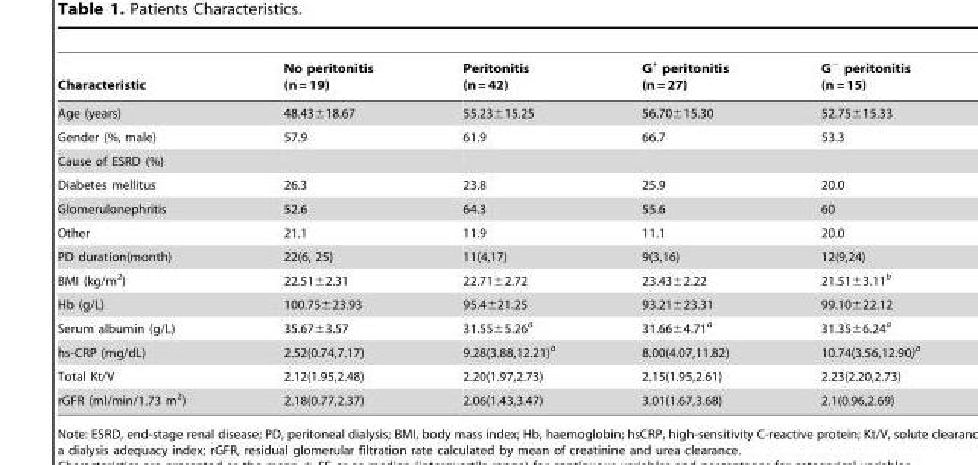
<table><thead><tr><td>Characteristic</td><td>No peritonitis (n = 19)</td><td>Peritonitis (n = 42)</td><td>G<sup>+</sup> peritonitis (n = 27)</td><td>G<sup>−</sup> peritonitis (n = 15)</td></tr></thead><tbody><tr><td>Age (years)</td><td>48.43±18.67</td><td>55.23±15.25</td><td>56.70±15.30</td><td>52.75±15.33</td></tr><tr><td>Gender (%, male)</td><td>57.9</td><td>61.9</td><td>66.7</td><td>53.3</td></tr><tr><td colspan="5">Cause of ESRD (%)</td></tr><tr><td>Diabetes mellitus</td><td>26.3</td><td>23.8</td><td>25.9</td><td>20.0</td></tr><tr><td>Glomerulonephritis</td><td>52.6</td><td>64.3</td><td>55.6</td><td>60</td></tr><tr><td>Other</td><td>21.1</td><td>11.9</td><td>11.1</td><td>20.0</td></tr><tr><td>PD duration(month)</td><td>22(6, 25)</td><td>11(4,17)</td><td>9(3,16)</td><td>12(9,24)</td></tr><tr><td>BMI (kg/m<sup>2</sup>)</td><td>22.51±2.31</td><td>22.71±2.72</td><td>23.43±2.22</td><td>21.51±3.11<sup>b</sup></td></tr><tr><td>Hb (g/L)</td><td>100.75±23.93</td><td>95.4±21.25</td><td>93.21±23.31</td><td>99.10±22.12</td></tr><tr><td>Serum albumin (g/L)</td><td>35.67±3.57</td><td>31.55±5.26<sup>a</sup></td><td>31.66±4.71<sup>a</sup></td><td>31.35±6.24<sup>a</sup></td></tr><tr><td>hs-CRP (mg/dL)</td><td>2.52(0.74,7.17)</td><td>9.28(3.88,12.21)<sup>a</sup></td><td>8.00(4.07,11.82)</td><td>10.74(3.56,12.90)a</td></tr><tr><td>Total Kt/V</td><td>2.12(1.95,2.48)</td><td>2.20(1.97,2.73)</td><td>2.15(1.95,2.61)</td><td>2.23(2.20,2.73)</td></tr><tr><td>rGFR (ml/min/1.73 m<sup>2</sup>)</td><td>2.18(0.77,2.37)</td><td>2.06(1.43,3.47)</td><td>3.01(1.67,3.68)</td><td>2.1(0.96,2.69)</td></tr></tbody></table>